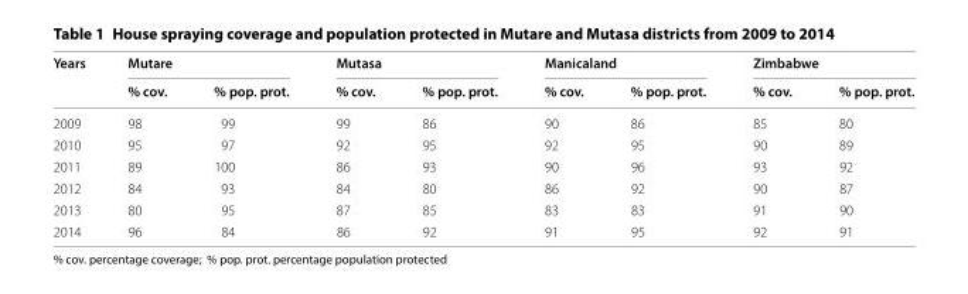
<table><thead><tr><td rowspan="2">Years</td><td colspan="2">Mutare</td><td colspan="2">Mutasa</td><td colspan="2">Manicaland</td><td colspan="2">Zimbabwe</td></tr><tr><td>% cov.</td><td>% pop. prot.</td><td>% cov.</td><td>% pop. prot.</td><td>% cov.</td><td>% pop. prot.</td><td>% cov.</td><td>% pop. prot.</td></tr></thead><tbody><tr><td>2009</td><td>98</td><td>99</td><td>99</td><td>86</td><td>90</td><td>86</td><td>85</td><td>80</td></tr><tr><td>2010</td><td>95</td><td>97</td><td>92</td><td>95</td><td>92</td><td>95</td><td>90</td><td>89</td></tr><tr><td>2011</td><td>89</td><td>100</td><td>86</td><td>93</td><td>90</td><td>96</td><td>93</td><td>92</td></tr><tr><td>2012</td><td>84</td><td>93</td><td>84</td><td>80</td><td>86</td><td>92</td><td>90</td><td>87</td></tr><tr><td>2013</td><td>80</td><td>95</td><td>87</td><td>85</td><td>83</td><td>83</td><td>91</td><td>90</td></tr><tr><td>2014</td><td>96</td><td>84</td><td>86</td><td>92</td><td>91</td><td>95</td><td>92</td><td>91</td></tr></tbody></table>